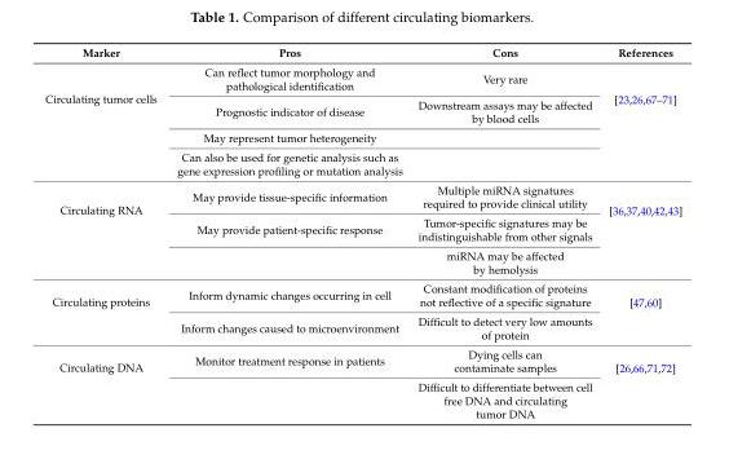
<table><thead><tr><td>Marker</td><td>Pros</td><td>Cons</td><td>References</td></tr></thead><tbody><tr><td rowspan="4">Circulating tumor cells</td><td>Can reflect tumor morphology and pathological identification</td><td>Very rare</td><td rowspan="4">[23,26,67–71]</td></tr><tr><td>Prognostic indicator of disease</td><td>Downstream assays may be affected by blood cells</td></tr><tr><td>May represent tumor heterogeneity</td><td></td></tr><tr><td>Can also be used for genetic analysis such as gene expression profiling or mutation analysis</td><td></td></tr><tr><td rowspan="3">Circulating RNA</td><td>May provide tissue-specific information</td><td>Multiple miRNA signatures required to provide clinical utility</td><td rowspan="3">[36,37,40,42,43]</td></tr><tr><td>May provide patient-specific response</td><td>Tumor-specific signatures may be indistinguishable from other signals</td></tr><tr><td></td><td>miRNA may be affected by hemolysis</td></tr><tr><td rowspan="2">Circulating proteins</td><td>Inform dynamic changes occurring in cell</td><td>Constant modification of proteins not reflective of a specific signature</td><td rowspan="2">[47,60]</td></tr><tr><td>Inform changes caused to microenvironment</td><td>Difficult to detect very low amounts of protein</td></tr><tr><td rowspan="2">Circulating DNA</td><td>Monitor treatment response in patients</td><td>Dying cells can contaminate samples</td><td rowspan="2">[26,66,71,72]</td></tr><tr><td></td><td>Difficult to differentiate between cell free DNA and circulating tumor DNA</td></tr></tbody></table>